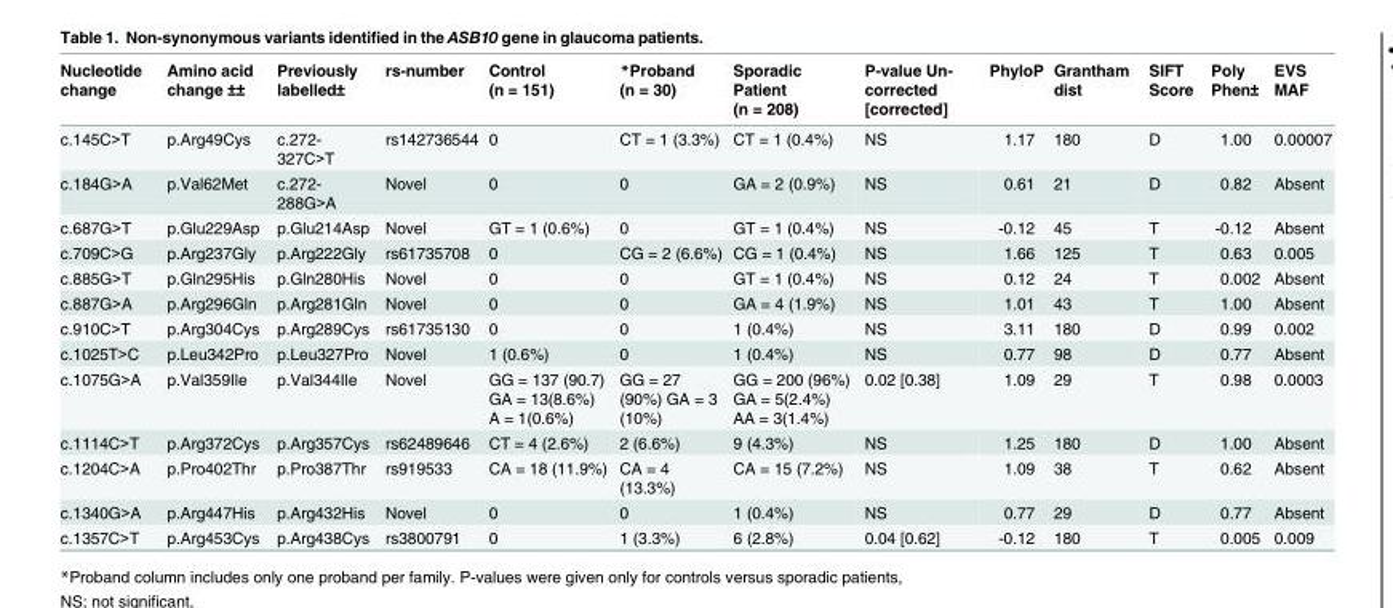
<table><thead><tr><td>Nucleotide change</td><td>Amino acid change ±±</td><td>Previously labelled±</td><td>rs-number</td><td>Control (n = 151)</td><td>*Proband (n = 30)</td><td>Sporadic Patient (n = 208)</td><td>P-value Un- corrected [corrected]</td><td>PhyloP</td><td>Grantham dist</td><td>SIFT Score</td><td>Poly Phen±</td><td>EVS MAF</td></tr></thead><tbody><tr><td>c.145C&gt;T</td><td>p.Arg49Cys</td><td>c.272- 327C&gt;T</td><td>rs142736544</td><td>0</td><td>CT = 1 (3.3%)</td><td>CT = 1 (0.4%)</td><td>NS</td><td>1.17</td><td>180</td><td>D</td><td>1.00</td><td>0.00007</td></tr><tr><td>c.184G&gt;A</td><td>p.Val62Met</td><td>c.272- 288G&gt;A</td><td>Novel</td><td>0</td><td>0</td><td>GA = 2 (0.9%)</td><td>NS</td><td>0.61</td><td>21</td><td>D</td><td>0.82</td><td>Absent</td></tr><tr><td>c.687G&gt;T</td><td>p.Glu229Asp</td><td>p.Glu214Asp</td><td>Novel</td><td>GT = 1 (0.6%)</td><td>0</td><td>GT = 1 (0.4%)</td><td>NS</td><td>-0.12</td><td>45</td><td>T</td><td>-0.12</td><td>Absent</td></tr><tr><td>c.709C&gt;G</td><td>p.Arg237Gly</td><td>p.Arg222Gly</td><td>rs61735708</td><td>0</td><td>CG = 2 (6.6%)</td><td>CG = 1 (0.4%)</td><td>NS</td><td>1.66</td><td>125</td><td>T</td><td>0.63</td><td>0.005</td></tr><tr><td>c.885G&gt;T</td><td>p.Gln295His</td><td>p.Gln280His</td><td>Novel</td><td>0</td><td>0</td><td>GT = 1 (0.4%)</td><td>NS</td><td>0.12</td><td>24</td><td>T</td><td>0.002</td><td>Absent</td></tr><tr><td>c.887G&gt;A</td><td>p.Arg296Gln</td><td>p.Arg281Gln</td><td>Novel</td><td>0</td><td>0</td><td>GA = 4 (1.9%)</td><td>NS</td><td>1.01</td><td>43</td><td>T</td><td>1.00</td><td>Absent</td></tr><tr><td>c.910C&gt;T</td><td>p.Arg304Cys</td><td>p.Arg289Cys</td><td>rs61735130</td><td>0</td><td>0</td><td>1 (0.4%)</td><td>NS</td><td>3.11</td><td>180</td><td>D</td><td>0.99</td><td>0.002</td></tr><tr><td>c.1025T&gt;C</td><td>p.Leu342Pro</td><td>p.Leu327Pro</td><td>Novel</td><td>1 (0.6%)</td><td>0</td><td>1 (0.4%)</td><td>NS</td><td>0.77</td><td>98</td><td>D</td><td>0.77</td><td>Absent</td></tr><tr><td>c.1075G&gt;A</td><td>p.Val359Ile</td><td>p.Val344Ile</td><td>Novel</td><td>GG = 137 (90.7) GA = 13(8.6%) A = 1(0.6%)</td><td>GG = 27 (90%) GA = 3 (10%)</td><td>GG = 200 (96%) GA = 5(2.4%) AA = 3(1.4%)</td><td>0.02 [0.38]</td><td>1.09</td><td>29</td><td>T</td><td>0.98</td><td>0.0003</td></tr><tr><td>c.1114C&gt;T</td><td>p.Arg372Cys</td><td>p.Arg357Cys</td><td>rs62489646</td><td>CT = 4 (2.6%)</td><td>2 (6.6%)</td><td>9 (4.3%)</td><td>NS</td><td>1.25</td><td>180</td><td>D</td><td>1.00</td><td>Absent</td></tr><tr><td>c.1204C&gt;A</td><td>p.Pro402Thr</td><td>p.Pro387Thr</td><td>rs919533</td><td>CA = 18 (11.9%)</td><td>CA = 4 (13.3%)</td><td>CA = 15 (7.2%)</td><td>NS</td><td>1.09</td><td>38</td><td>T</td><td>0.62</td><td>Absent</td></tr><tr><td>c.1340G&gt;A</td><td>p.Arg447His</td><td>p.Arg432His</td><td>Novel</td><td>0</td><td>0</td><td>1 (0.4%)</td><td>NS</td><td>0.77</td><td>29</td><td>D</td><td>0.77</td><td>Absent</td></tr><tr><td>c.1357C&gt;T</td><td>p.Arg453Cys</td><td>p.Arg438Cys</td><td>rs3800791</td><td>0</td><td>1 (3.3%)</td><td>6 (2.8%)</td><td>0.04 [0.62]</td><td>-0.12</td><td>180</td><td>T</td><td>0.005</td><td>0.009</td></tr></tbody></table>